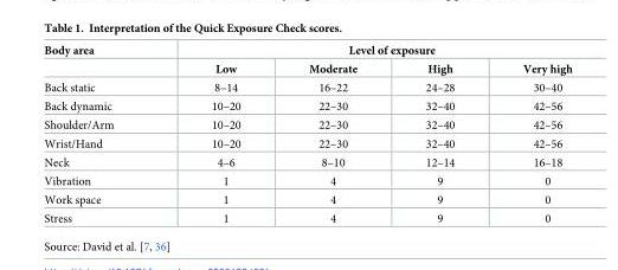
<table><thead><tr><td rowspan="2">Body area</td><td colspan="4">Level of exposure</td></tr><tr><td>Low</td><td>Moderate</td><td>High</td><td>Very high</td></tr></thead><tbody><tr><td>Back static</td><td>8–14</td><td>16–22</td><td>24–28</td><td>30–40</td></tr><tr><td>Back dynamic</td><td>10–20</td><td>22–30</td><td>32–40</td><td>42–56</td></tr><tr><td>Shoulder/Arm</td><td>10–20</td><td>22–30</td><td>32–40</td><td>42–56</td></tr><tr><td>Wrist/Hand</td><td>10–20</td><td>22–30</td><td>32–40</td><td>42–56</td></tr><tr><td>Neck</td><td>4–6</td><td>8–10</td><td>12–14</td><td>16–18</td></tr><tr><td>Vibration</td><td>1</td><td>4</td><td>9</td><td>0</td></tr><tr><td>Work space</td><td>1</td><td>4</td><td>9</td><td>0</td></tr><tr><td>Stress</td><td>1</td><td>4</td><td>9</td><td>0</td></tr></tbody></table>